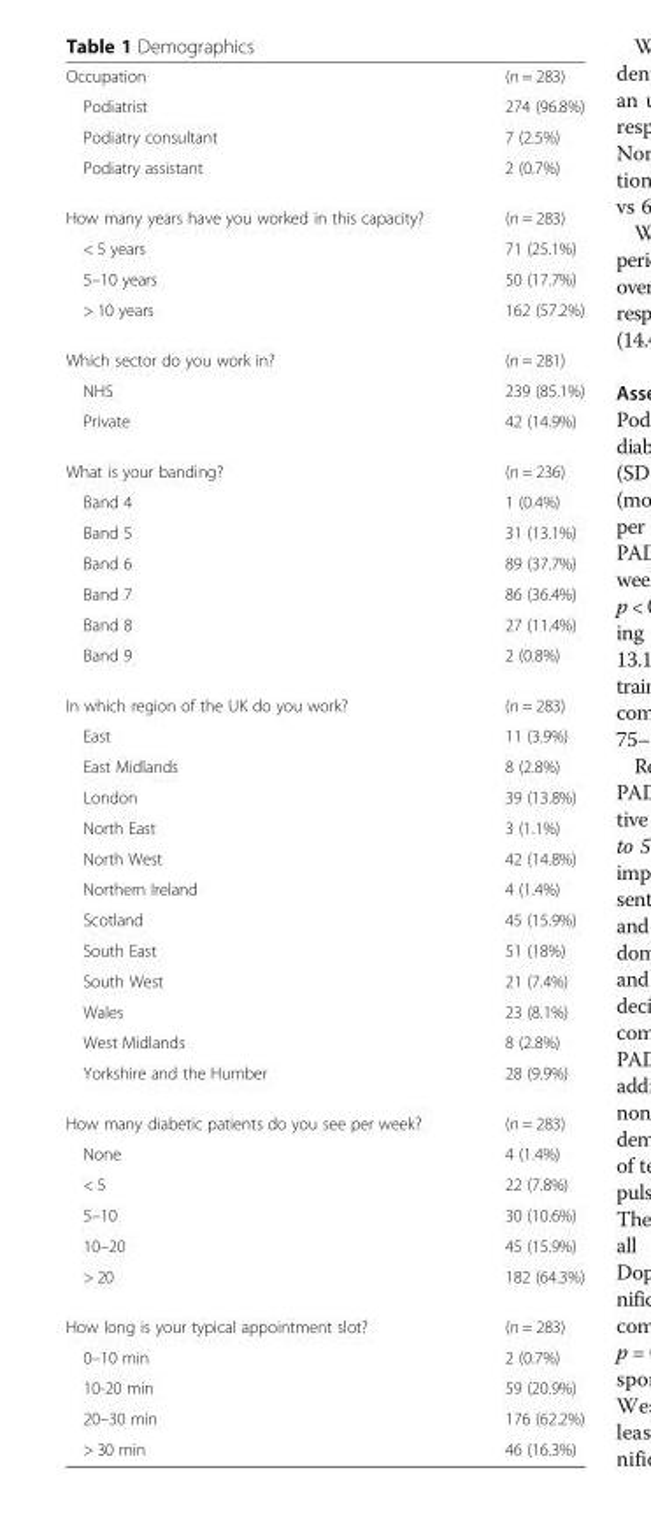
<table><tbody><tr><td>Occupation</td><td>(n = 283)</td></tr><tr><td>Podiatrist</td><td>274 (96.8%)</td></tr><tr><td>Podiatry consultant</td><td>7 (2.5%)</td></tr><tr><td>Podiatry assistant</td><td>2 (0.7%)</td></tr><tr><td>How many years have you worked in this capacity?</td><td>(n = 283)</td></tr><tr><td>&lt; 5 years</td><td>71 (25.1%)</td></tr><tr><td>5–10 years</td><td>50 (17.7%)</td></tr><tr><td>&gt; 10 years</td><td>162 (57.2%)</td></tr><tr><td>Which sector do you work in?</td><td>(n = 281)</td></tr><tr><td>NHS</td><td>239 (85.1%)</td></tr><tr><td>Private</td><td>42 (14.9%)</td></tr><tr><td>What is your banding?</td><td>(n = 236)</td></tr><tr><td>Band 4</td><td>1 (0.4%)</td></tr><tr><td>Band 5</td><td>31 (13.1%)</td></tr><tr><td>Band 6</td><td>89 (37.7%)</td></tr><tr><td>Band 7</td><td>86 (36.4%)</td></tr><tr><td>Band 8</td><td>27 (11.4%)</td></tr><tr><td>Band 9</td><td>2 (0.8%)</td></tr><tr><td>In which region of the UK do you work?</td><td>(n = 283)</td></tr><tr><td>East</td><td>11 (3.9%)</td></tr><tr><td>East Midlands</td><td>8 (2.8%)</td></tr><tr><td>London</td><td>39 (13.8%)</td></tr><tr><td>North East</td><td>3 (1.1%)</td></tr><tr><td>North West</td><td>42 (14.8%)</td></tr><tr><td>Northern Ireland</td><td>4 (1.4%)</td></tr><tr><td>Scotland</td><td>45 (15.9%)</td></tr><tr><td>South East</td><td>51 (18%)</td></tr><tr><td>South West</td><td>21 (7.4%)</td></tr><tr><td>Wales</td><td>23 (8.1%)</td></tr><tr><td>West Midlands</td><td>8 (2.8%)</td></tr><tr><td>Yorkshire and the Humber</td><td>28 (9.9%)</td></tr><tr><td>How many diabetic patients do you see per week?</td><td>(n = 283)</td></tr><tr><td>None</td><td>4 (1.4%)</td></tr><tr><td>&lt; 5</td><td>22 (7.8%)</td></tr><tr><td>5–10</td><td>30 (10.6%)</td></tr><tr><td>10–20</td><td>45 (15.9%)</td></tr><tr><td>&gt; 20</td><td>182 (64.3%)</td></tr><tr><td>How long is your typical appointment slot?</td><td>(n = 283)</td></tr><tr><td>0–10 min</td><td>2 (0.7%)</td></tr><tr><td>10-20 min</td><td>59 (20.9%)</td></tr><tr><td>20–30 min</td><td>176 (62.2%)</td></tr><tr><td>&gt; 30 min</td><td>46 (16.3%)</td></tr></tbody></table>